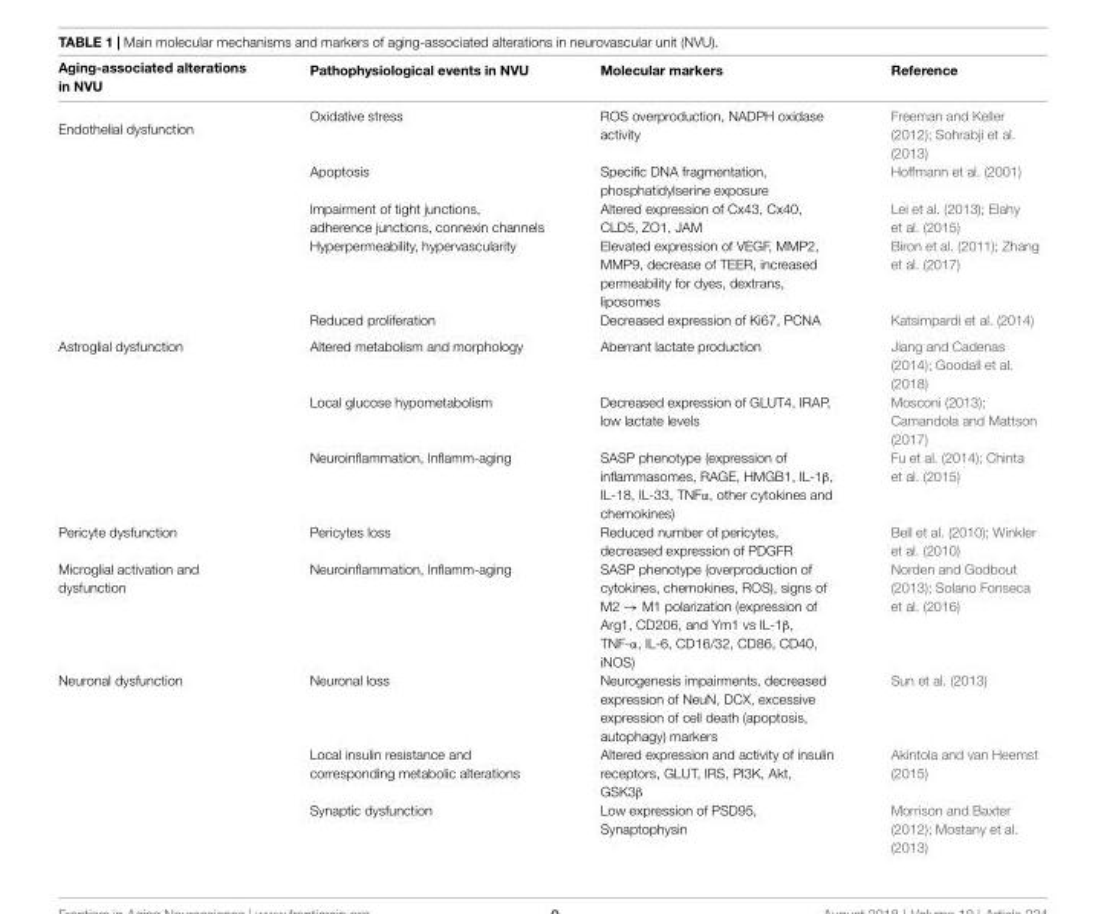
<table><thead><tr><td>Aging-associated alterations in NVU</td><td>Pathophysiological events in NVU</td><td>Molecular markers</td><td>Reference</td></tr></thead><tbody><tr><td rowspan="5">Endothelial dysfunction</td><td>Oxidative stress</td><td>ROS overproduction, NADPH oxidase activity</td><td>Freeman and Keller (2012); Sohrabji et al. (2013)</td></tr><tr><td>Apoptosis</td><td>Specific DNA fragmentation, phosphatidylserine exposure</td><td>Hoffmann et al. (2001)</td></tr><tr><td>Impairment of tight junctions, adherence junctions, connexin channels</td><td>Altered expression of Cx43, Cx40, CLD5, ZO1, JAM</td><td>Lei et al. (2013); Elahy et al. (2015)</td></tr><tr><td>Hyperpermeability, hypervascularity</td><td>Elevated expression of VEGF, MMP2, MMP9, decrease of TEER, increased permeability for dyes, dextrans, liposomes</td><td>Biron et al. (2011); Zhang et al. (2017)</td></tr><tr><td>Reduced proliferation</td><td>Decreased expression of Ki67, PCNA</td><td>Katsimpardi et al. (2014)</td></tr><tr><td rowspan="3">Astroglial dysfunction</td><td>Altered metabolism and morphology</td><td>Aberrant lactate production</td><td>Jiang and Cadenas (2014); Goodall et al. (2018)</td></tr><tr><td>Local glucose hypometabolism</td><td>Decreased expression of GLUT4, IRAP, low lactate levels</td><td>Mosconi (2013); Camandola and Mattson (2017)</td></tr><tr><td>Neuroinflammation, Inflamm-aging</td><td>SASP phenotype (expression of inflammasomes, RAGE, HMGB1, IL-1β, IL-18, IL-33, TNFα, other cytokines and chemokines)</td><td>Fu et al. (2014); Chinta et al. (2015)</td></tr><tr><td>Pericyte dysfunction</td><td>Pericytes loss</td><td>Reduced number of pericytes, decreased expression of PDGFR</td><td>Bell et al. (2010); Winkler et al. (2010)</td></tr><tr><td>Microglial activation and dysfunction</td><td>Neuroinflammation, Inflamm-aging</td><td>SASP phenotype (overproduction of cytokines, chemokines, ROS), signs of M2 → M1 polarization (expression of Arg1, CD206, and Ym1 vs IL-1β, TNF-α, IL-6, CD16/32, CD86, CD40, iNOS)</td><td>Norden and Godbout (2013); Solano Fonseca et al. (2016)</td></tr><tr><td rowspan="3">Neuronal dysfunction</td><td>Neuronal loss</td><td>Neurogenesis impairments, decreased expression of NeuN, DCX, excessive expression of cell death (apoptosis, autophagy) markers</td><td>Sun et al. (2013)</td></tr><tr><td>Local insulin resistance and corresponding metabolic alterations</td><td>Altered expression and activity of insulin receptors, GLUT, IRS, PI3K, Akt, GSK3β</td><td>Akintola and van Heemst (2015)</td></tr><tr><td>Synaptic dysfunction</td><td>Low expression of PSD95, Synaptophysin</td><td>Morrison and Baxter (2012); Mostany et al. (2013)</td></tr></tbody></table>